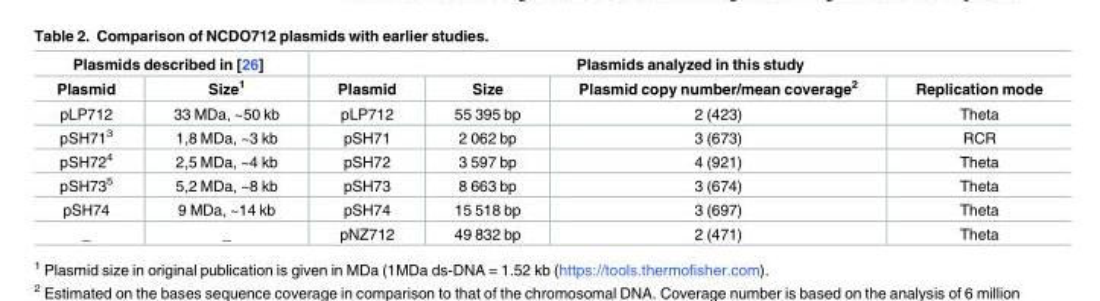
<table><thead><tr><td colspan="2">Plasmids described in [26]</td><td colspan="4">Plasmids analyzed in this study</td></tr><tr><td>Plasmid</td><td>Size<sup>1</sup></td><td>Plasmid</td><td>Size</td><td>Plasmid copy number/mean coverage<sup>2</sup></td><td>Replication mode</td></tr></thead><tbody><tr><td>pLP712</td><td>33 MDa, ~50 kb</td><td>pLP712</td><td>55 395 bp</td><td>2 (423)</td><td>Theta</td></tr><tr><td>pSH71<sup>3</sup></td><td>1,8 MDa, ~3 kb</td><td>pSH71</td><td>2 062 bp</td><td>3 (673)</td><td>RCR</td></tr><tr><td>pSH72<sup>4</sup></td><td>2,5 MDa, ~4 kb</td><td>pSH72</td><td>3 597 bp</td><td>4 (921)</td><td>Theta</td></tr><tr><td>pSH73<sup>5</sup></td><td>5,2 MDa, ~8 kb</td><td>pSH73</td><td>8 663 bp</td><td>3 (674)</td><td>Theta</td></tr><tr><td>pSH74</td><td>9 MDa, ~14 kb</td><td>pSH74</td><td>15 518 bp</td><td>3 (697)</td><td>Theta</td></tr><tr><td>_</td><td>_</td><td>pNZ712</td><td>49 832 bp</td><td>2 (471)</td><td>Theta</td></tr></tbody></table>